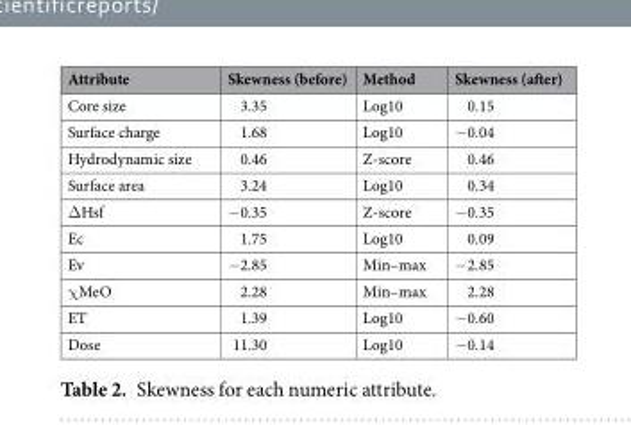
<table><thead><tr><td>Attribute</td><td>Skewness (before)</td><td>Method</td><td>Skewness (after)</td></tr></thead><tbody><tr><td>Core size</td><td>3.35</td><td>Log10</td><td>0.15</td></tr><tr><td>Surface charge</td><td>1.68</td><td>Log10</td><td>−0.04</td></tr><tr><td>Hydrodynamic size</td><td>0.46</td><td>Z-score</td><td>0.46</td></tr><tr><td>Surface area</td><td>3.24</td><td>Log10</td><td>0.34</td></tr><tr><td>ΔHsf</td><td>−0.35</td><td>Z-score</td><td>−0.35</td></tr><tr><td>Ec</td><td>1.75</td><td>Log10</td><td>0.09</td></tr><tr><td>Ev</td><td>−2.85</td><td>Min–max</td><td>−2.85</td></tr><tr><td>χMeO</td><td>2.28</td><td>Min–max</td><td>2.28</td></tr><tr><td>ET</td><td>1.39</td><td>Log10</td><td>−0.60</td></tr><tr><td>Dose</td><td>11.30</td><td>Log10</td><td>−0.14</td></tr></tbody></table>